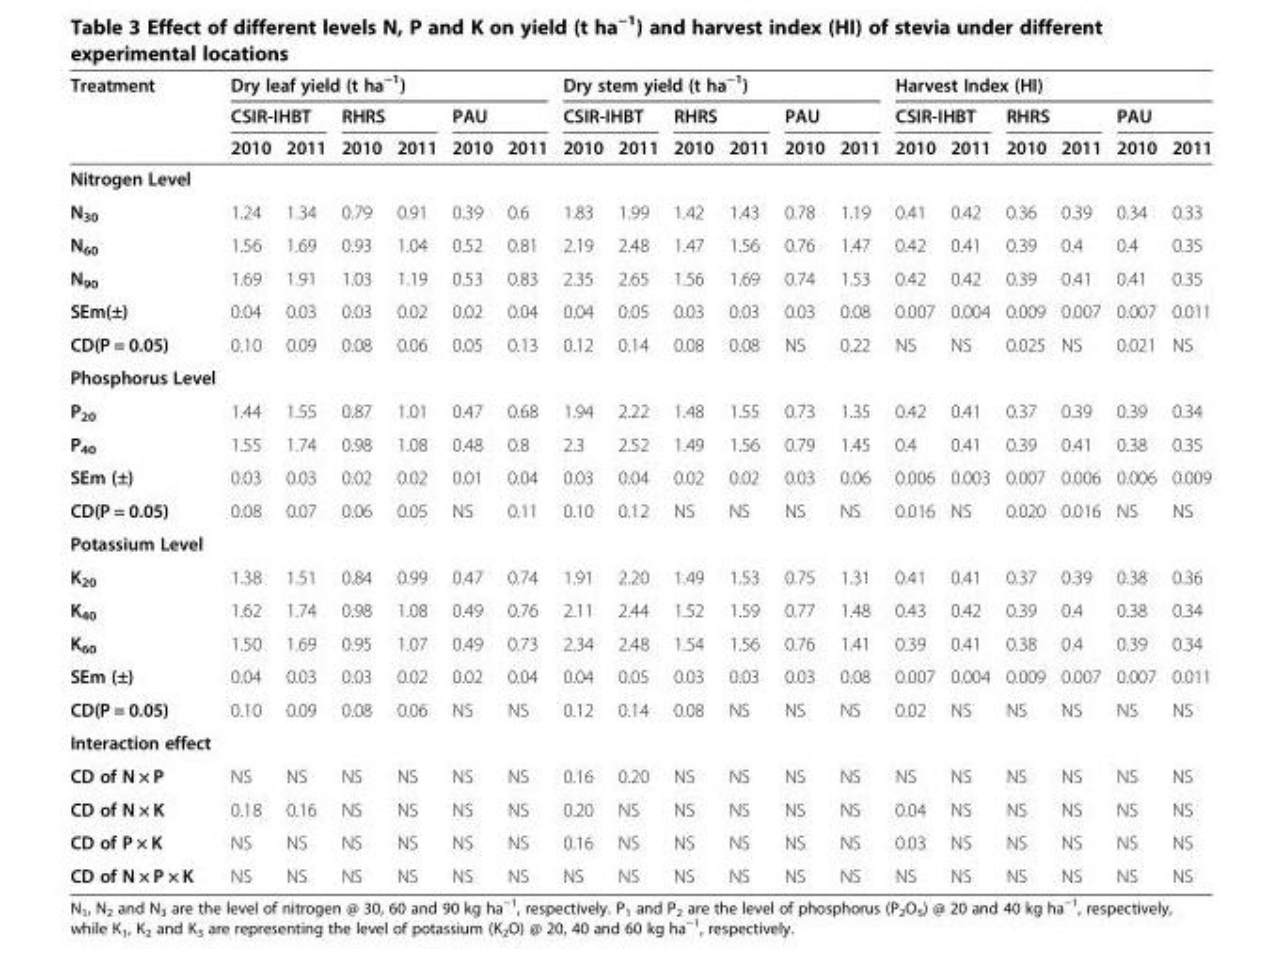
<table><thead><tr><td rowspan="3">Treatment</td><td colspan="6">Dry leaf yield (t ha<sup>−1</sup>)</td><td colspan="6">Dry stem yield (t ha<sup>−1</sup>)</td><td colspan="6">Harvest Index (HI)</td></tr><tr><td colspan="2">CSIR-IHBT</td><td colspan="2">RHRS</td><td colspan="2">PAU</td><td colspan="2">CSIR-IHBT</td><td colspan="2">RHRS</td><td colspan="2">PAU</td><td colspan="2">CSIR-IHBT</td><td colspan="2">RHRS</td><td colspan="2">PAU</td></tr><tr><td>2010</td><td>2011</td><td>2010</td><td>2011</td><td>2010</td><td>2011</td><td>2010</td><td>2011</td><td>2010</td><td>2011</td><td>2010</td><td>2011</td><td>2010</td><td>2011</td><td>2010</td><td>2011</td><td>2010</td><td>2011</td></tr></thead><tbody><tr><td colspan="19">Nitrogen Level</td></tr><tr><td>N<sub>30</sub></td><td>1.24</td><td>1.34</td><td>0.79</td><td>0.91</td><td>0.39</td><td>0.6</td><td>1.83</td><td>1.99</td><td>1.42</td><td>1.43</td><td>0.78</td><td>1.19</td><td>0.41</td><td>0.42</td><td>0.36</td><td>0.39</td><td>0.34</td><td>0.33</td></tr><tr><td>N<sub>60</sub></td><td>1.56</td><td>1.69</td><td>0.93</td><td>1.04</td><td>0.52</td><td>0.81</td><td>2.19</td><td>2.48</td><td>1.47</td><td>1.56</td><td>0.76</td><td>1.47</td><td>0.42</td><td>0.41</td><td>0.39</td><td>0.4</td><td>0.4</td><td>0.35</td></tr><tr><td>N<sub>90</sub></td><td>1.69</td><td>1.91</td><td>1.03</td><td>1.19</td><td>0.53</td><td>0.83</td><td>2.35</td><td>2.65</td><td>1.56</td><td>1.69</td><td>0.74</td><td>1.53</td><td>0.42</td><td>0.42</td><td>0.39</td><td>0.41</td><td>0.41</td><td>0.35</td></tr><tr><td>SEm(±)</td><td>0.04</td><td>0.03</td><td>0.03</td><td>0.02</td><td>0.02</td><td>0.04</td><td>0.04</td><td>0.05</td><td>0.03</td><td>0.03</td><td>0.03</td><td>0.08</td><td>0.007</td><td>0.004</td><td>0.009</td><td>0.007</td><td>0.007</td><td>0.011</td></tr><tr><td>CD(P = 0.05)</td><td>0.10</td><td>0.09</td><td>0.08</td><td>0.06</td><td>0.05</td><td>0.13</td><td>0.12</td><td>0.14</td><td>0.08</td><td>0.08</td><td>NS</td><td>0.22</td><td>NS</td><td>NS</td><td>0.025</td><td>NS</td><td>0.021</td><td>NS</td></tr><tr><td colspan="19">Phosphorus Level</td></tr><tr><td>P<sub>20</sub></td><td>1.44</td><td>1.55</td><td>0.87</td><td>1.01</td><td>0.47</td><td>0.68</td><td>1.94</td><td>2.22</td><td>1.48</td><td>1.55</td><td>0.73</td><td>1.35</td><td>0.42</td><td>0.41</td><td>0.37</td><td>0.39</td><td>0.39</td><td>0.34</td></tr><tr><td>P<sub>40</sub></td><td>1.55</td><td>1.74</td><td>0.98</td><td>1.08</td><td>0.48</td><td>0.8</td><td>2.3</td><td>2.52</td><td>1.49</td><td>1.56</td><td>0.79</td><td>1.45</td><td>0.4</td><td>0.41</td><td>0.39</td><td>0.41</td><td>0.38</td><td>0.35</td></tr><tr><td>SEm (±)</td><td>0.03</td><td>0.03</td><td>0.02</td><td>0.02</td><td>0.01</td><td>0.04</td><td>0.03</td><td>0.04</td><td>0.02</td><td>0.02</td><td>0.03</td><td>0.06</td><td>0.006</td><td>0.003</td><td>0.007</td><td>0.006</td><td>0.006</td><td>0.009</td></tr><tr><td>CD(P = 0.05)</td><td>0.08</td><td>0.07</td><td>0.06</td><td>0.05</td><td>NS</td><td>0.11</td><td>0.10</td><td>0.12</td><td>NS</td><td>NS</td><td>NS</td><td>NS</td><td>0.016</td><td>NS</td><td>0.020</td><td>0.016</td><td>NS</td><td>NS</td></tr><tr><td colspan="19">Potassium Level</td></tr><tr><td>K<sub>20</sub></td><td>1.38</td><td>1.51</td><td>0.84</td><td>0.99</td><td>0.47</td><td>0.74</td><td>1.91</td><td>2.20</td><td>1.49</td><td>1.53</td><td>0.75</td><td>1.31</td><td>0.41</td><td>0.41</td><td>0.37</td><td>0.39</td><td>0.38</td><td>0.36</td></tr><tr><td>K<sub>40</sub></td><td>1.62</td><td>1.74</td><td>0.98</td><td>1.08</td><td>0.49</td><td>0.76</td><td>2.11</td><td>2.44</td><td>1.52</td><td>1.59</td><td>0.77</td><td>1.48</td><td>0.43</td><td>0.42</td><td>0.39</td><td>0.4</td><td>0.38</td><td>0.34</td></tr><tr><td>K<sub>60</sub></td><td>1.50</td><td>1.69</td><td>0.95</td><td>1.07</td><td>0.49</td><td>0.73</td><td>2.34</td><td>2.48</td><td>1.54</td><td>1.56</td><td>0.76</td><td>1.41</td><td>0.39</td><td>0.41</td><td>0.38</td><td>0.4</td><td>0.39</td><td>0.34</td></tr><tr><td>SEm (±)</td><td>0.04</td><td>0.03</td><td>0.03</td><td>0.02</td><td>0.02</td><td>0.04</td><td>0.04</td><td>0.05</td><td>0.03</td><td>0.03</td><td>0.03</td><td>0.08</td><td>0.007</td><td>0.004</td><td>0.009</td><td>0.007</td><td>0.007</td><td>0.011</td></tr><tr><td>CD(P = 0.05)</td><td>0.10</td><td>0.09</td><td>0.08</td><td>0.06</td><td>NS</td><td>NS</td><td>0.12</td><td>0.14</td><td>0.08</td><td>NS</td><td>NS</td><td>NS</td><td>0.02</td><td>NS</td><td>NS</td><td>NS</td><td>NS</td><td>NS</td></tr><tr><td colspan="19">Interaction effect</td></tr><tr><td>CD of N × P</td><td>NS</td><td>NS</td><td>NS</td><td>NS</td><td>NS</td><td>NS</td><td>0.16</td><td>0.20</td><td>NS</td><td>NS</td><td>NS</td><td>NS</td><td>NS</td><td>NS</td><td>NS</td><td>NS</td><td>NS</td><td>NS</td></tr><tr><td>CD of N × K</td><td>0.18</td><td>0.16</td><td>NS</td><td>NS</td><td>NS</td><td>NS</td><td>0.20</td><td>NS</td><td>NS</td><td>NS</td><td>NS</td><td>NS</td><td>0.04</td><td>NS</td><td>NS</td><td>NS</td><td>NS</td><td>NS</td></tr><tr><td>CD of P × K</td><td>NS</td><td>NS</td><td>NS</td><td>NS</td><td>NS</td><td>NS</td><td>0.16</td><td>NS</td><td>NS</td><td>NS</td><td>NS</td><td>NS</td><td>0.03</td><td>NS</td><td>NS</td><td>NS</td><td>NS</td><td>NS</td></tr><tr><td>CD of N × P × K</td><td>NS</td><td>NS</td><td>NS</td><td>NS</td><td>NS</td><td>NS</td><td>NS</td><td>NS</td><td>NS</td><td>NS</td><td>NS</td><td>NS</td><td>NS</td><td>NS</td><td>NS</td><td>NS</td><td>NS</td><td>NS</td></tr></tbody></table>